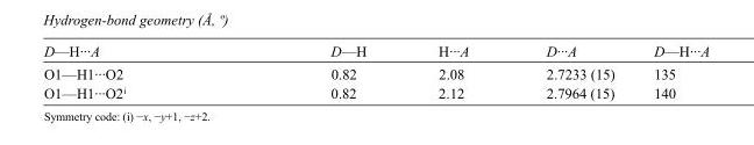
<table><tbody><tr><td>D—H···A</td><td>D—H</td><td>H···A</td><td>D···A</td><td>D—H···A</td></tr><tr><td>O1—H1···O2</td><td>0.82</td><td>2.08</td><td>2.7233 (15)</td><td>135</td></tr><tr><td>O1—H1···O2<sup>i</sup></td><td>0.82</td><td>2.12</td><td>2.7964 (15)</td><td>140</td></tr></tbody></table>